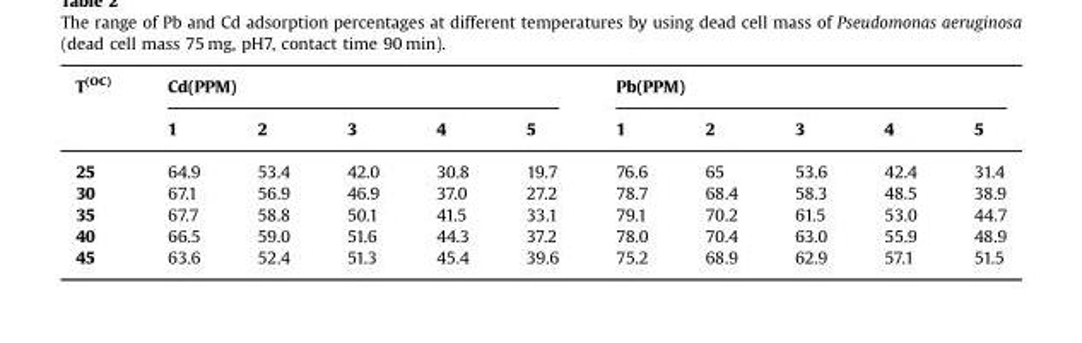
<table><thead><tr><td rowspan="2">T<sup>(OC)</sup></td><td colspan="5">Cd(PPM)</td><td colspan="5">Pb(PPM)</td></tr><tr><td>1</td><td>2</td><td>3</td><td>4</td><td>5</td><td>1</td><td>2</td><td>3</td><td>4</td><td>5</td></tr></thead><tbody><tr><td>25</td><td>64.9</td><td>53.4</td><td>42.0</td><td>30.8</td><td>19.7</td><td>76.6</td><td>65</td><td>53.6</td><td>42.4</td><td>31.4</td></tr><tr><td>30</td><td>67.1</td><td>56.9</td><td>46.9</td><td>37.0</td><td>27.2</td><td>78.7</td><td>68.4</td><td>58.3</td><td>48.5</td><td>38.9</td></tr><tr><td>35</td><td>67.7</td><td>58.8</td><td>50.1</td><td>41.5</td><td>33.1</td><td>79.1</td><td>70.2</td><td>61.5</td><td>53.0</td><td>44.7</td></tr><tr><td>40</td><td>66.5</td><td>59.0</td><td>51.6</td><td>44.3</td><td>37.2</td><td>78.0</td><td>70.4</td><td>63.0</td><td>55.9</td><td>48.9</td></tr><tr><td>45</td><td>63.6</td><td>52.4</td><td>51.3</td><td>45.4</td><td>39.6</td><td>75.2</td><td>68.9</td><td>62.9</td><td>57.1</td><td>51.5</td></tr></tbody></table>